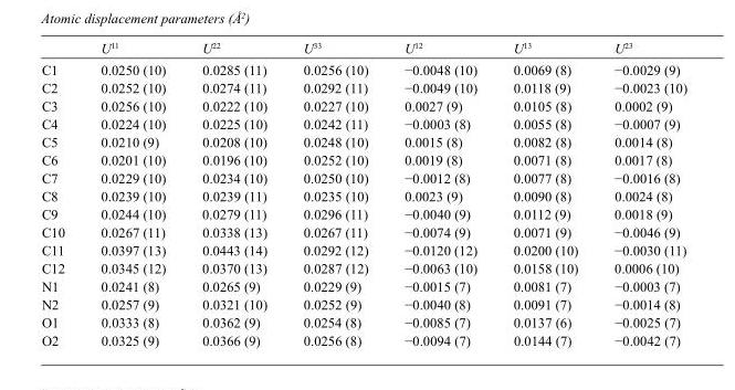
<table><thead><tr><td></td><td>U<sup>11</sup></td><td>U<sup>22</sup></td><td>U<sup>33</sup></td><td>U<sup>12</sup></td><td>U<sup>13</sup></td><td>U<sup>23</sup></td></tr></thead><tbody><tr><td>C1</td><td>0.0250 (10)</td><td>0.0285 (11)</td><td>0.0256 (10)</td><td>−0.0048 (10)</td><td>0.0069 (8)</td><td>−0.0029 (9)</td></tr><tr><td>C2</td><td>0.0252 (10)</td><td>0.0274 (11)</td><td>0.0292 (11)</td><td>−0.0049 (10)</td><td>0.0118 (9)</td><td>−0.0023 (10)</td></tr><tr><td>C3</td><td>0.0256 (10)</td><td>0.0222 (10)</td><td>0.0227 (10)</td><td>0.0027 (9)</td><td>0.0105 (8)</td><td>0.0002 (9)</td></tr><tr><td>C4</td><td>0.0224 (10)</td><td>0.0225 (10)</td><td>0.0242 (11)</td><td>−0.0003 (8)</td><td>0.0055 (8)</td><td>−0.0007 (9)</td></tr><tr><td>C5</td><td>0.0210 (9)</td><td>0.0208 (10)</td><td>0.0248 (10)</td><td>0.0015 (8)</td><td>0.0082 (8)</td><td>0.0014 (8)</td></tr><tr><td>C6</td><td>0.0201 (10)</td><td>0.0196 (10)</td><td>0.0252 (10)</td><td>0.0019 (8)</td><td>0.0071 (8)</td><td>0.0017 (8)</td></tr><tr><td>C7</td><td>0.0229 (10)</td><td>0.0234 (10)</td><td>0.0250 (10)</td><td>−0.0012 (8)</td><td>0.0077 (8)</td><td>−0.0016 (8)</td></tr><tr><td>C8</td><td>0.0239 (10)</td><td>0.0239 (11)</td><td>0.0235 (10)</td><td>0.0023 (9)</td><td>0.0090 (8)</td><td>0.0024 (8)</td></tr><tr><td>C9</td><td>0.0244 (10)</td><td>0.0279 (11)</td><td>0.0296 (11)</td><td>−0.0040 (9)</td><td>0.0112 (9)</td><td>0.0018 (9)</td></tr><tr><td>C10</td><td>0.0267 (11)</td><td>0.0338 (13)</td><td>0.0267 (11)</td><td>−0.0074 (9)</td><td>0.0071 (9)</td><td>−0.0046 (9)</td></tr><tr><td>C11</td><td>0.0397 (13)</td><td>0.0443 (14)</td><td>0.0292 (12)</td><td>−0.0120 (12)</td><td>0.0200 (10)</td><td>−0.0030 (11)</td></tr><tr><td>C12</td><td>0.0345 (12)</td><td>0.0370 (13)</td><td>0.0287 (12)</td><td>−0.0063 (10)</td><td>0.0158 (10)</td><td>0.0006 (10)</td></tr><tr><td>N1</td><td>0.0241 (8)</td><td>0.0265 (9)</td><td>0.0229 (9)</td><td>−0.0015 (7)</td><td>0.0081 (7)</td><td>−0.0003 (7)</td></tr><tr><td>N2</td><td>0.0257 (9)</td><td>0.0321 (10)</td><td>0.0252 (9)</td><td>−0.0040 (8)</td><td>0.0091 (7)</td><td>−0.0014 (8)</td></tr><tr><td>O1</td><td>0.0333 (8)</td><td>0.0362 (9)</td><td>0.0254 (8)</td><td>−0.0085 (7)</td><td>0.0137 (6)</td><td>−0.0025 (7)</td></tr><tr><td>O2</td><td>0.0325 (9)</td><td>0.0366 (9)</td><td>0.0256 (8)</td><td>−0.0094 (7)</td><td>0.0144 (7)</td><td>−0.0042 (7)</td></tr></tbody></table>